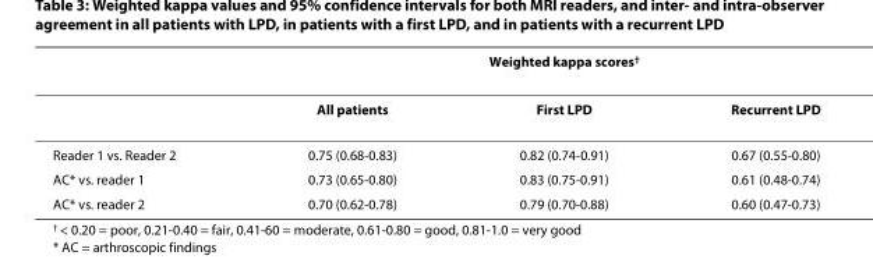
<table><thead><tr><td rowspan="2"></td><td colspan="3">Weighted kappa scores<sup>†</sup></td></tr><tr><td>All patients</td><td>First LPD</td><td>Recurrent LPD</td></tr></thead><tbody><tr><td>Reader 1 vs. Reader 2</td><td>0.75 (0.68-0.83)</td><td>0.82 (0.74-0.91)</td><td>0.67 (0.55-0.80)</td></tr><tr><td>AC* vs. reader 1</td><td>0.73 (0.65-0.80)</td><td>0.83 (0.75-0.91)</td><td>0.61 (0.48-0.74)</td></tr><tr><td>AC* vs. reader 2</td><td>0.70 (0.62-0.78)</td><td>0.79 (0.70-0.88)</td><td>0.60 (0.47-0.73)</td></tr></tbody></table>